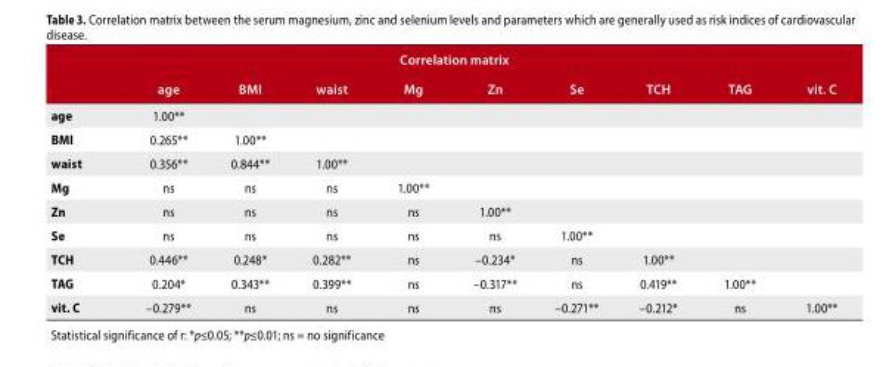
<table><thead><tr><td rowspan="2"></td><td colspan="9">correlation matrix</td></tr><tr><td>age</td><td>bMi</td><td>waist</td><td>Mg</td><td>Zn</td><td>Se</td><td>tcH</td><td>tAG</td><td>vit. c</td></tr></thead><tbody><tr><td>age</td><td>1.00**</td><td></td><td></td><td></td><td></td><td></td><td></td><td></td><td></td></tr><tr><td>BMI</td><td>0.265**</td><td>1.00**</td><td></td><td></td><td></td><td></td><td></td><td></td><td></td></tr><tr><td>waist</td><td>0.356**</td><td>0.844**</td><td>1.00**</td><td></td><td></td><td></td><td></td><td></td><td></td></tr><tr><td>Mg</td><td>ns</td><td>ns</td><td>ns</td><td>1.00**</td><td></td><td></td><td></td><td></td><td></td></tr><tr><td>Zn</td><td>ns</td><td>ns</td><td>ns</td><td>ns</td><td>1.00**</td><td></td><td></td><td></td><td></td></tr><tr><td>Se</td><td>ns</td><td>ns</td><td>ns</td><td>ns</td><td>ns</td><td>1.00**</td><td></td><td></td><td></td></tr><tr><td>TCH</td><td>0.446**</td><td>0.248*</td><td>0.282**</td><td>ns</td><td>–0.234*</td><td>ns</td><td>1.00**</td><td></td><td></td></tr><tr><td>TAG</td><td>0.204*</td><td>0.343**</td><td>0.399**</td><td>ns</td><td>–0.317**</td><td>ns</td><td>0.419**</td><td>1.00**</td><td></td></tr><tr><td>vit. C</td><td>–0.279**</td><td>ns</td><td>ns</td><td>ns</td><td>ns</td><td>–0.271**</td><td>–0.212*</td><td>ns</td><td>1.00**</td></tr></tbody></table>